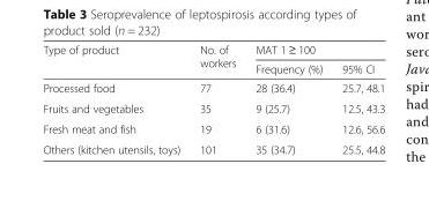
<table><thead><tr><td rowspan="2">Type of product</td><td rowspan="2">No. of workers</td><td colspan="2">MAT 1 ≥ 100</td></tr><tr><td>Frequency (%)</td><td>95% CI</td></tr></thead><tbody><tr><td>Processed food</td><td>77</td><td>28 (36.4)</td><td>25.7, 48.1</td></tr><tr><td>Fruits and vegetables</td><td>35</td><td>9 (25.7)</td><td>12.5, 43.3</td></tr><tr><td>Fresh meat and fish</td><td>19</td><td>6 (31.6)</td><td>12.6, 56.6</td></tr><tr><td>Others (kitchen utensils, toys)</td><td>101</td><td>35 (34.7)</td><td>25.5, 44.8</td></tr></tbody></table>